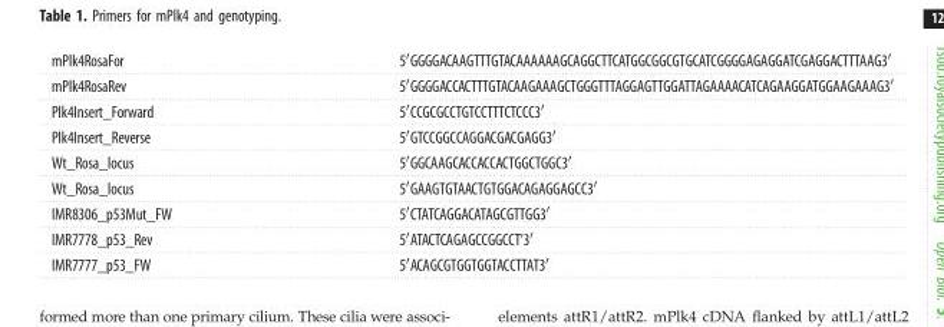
<table><tbody><tr><td>mPlk4RosaFor</td><td>5′GGGGACAAGTTTGTACAAAAAAGCAGGCTTCATGGCGGCGTGCATCGGGGAGAGGATCGAGGACTTTAAG3′</td></tr><tr><td>mPlk4RosaRev</td><td>5′GGGGACCACTTTGTACAAGAAAGCTGGGTTTAGGAGTTGGATTAGAAAACATCAGAAGGATGGAAGAAAG3′</td></tr><tr><td>Plk4Insert_Forward</td><td>5′CCGCGCCTGTCCTTTCTCCC3′</td></tr><tr><td>Plk4Insert_Reverse</td><td>5′GTCCGGCCAGGACGACGAGG3′</td></tr><tr><td>Wt_Rosa_locus</td><td>5′GGCAAGCACCACCACTGGCTGGC3′</td></tr><tr><td>Wt_Rosa_locus</td><td>5′GAAGTGTAACTGTGGACAGAGGAGCC3′</td></tr><tr><td>IMR8306_p53Mut_FW</td><td>5′CTATCAGGACATAGCGTTGG3′</td></tr><tr><td>IMR7778_p53_Rev</td><td>5′ATACTCAGAGCCGGCCT’3′</td></tr><tr><td>IMR7777_p53_FW</td><td>5′ACAGCGTGGTGGTACCTTAT3′</td></tr></tbody></table>